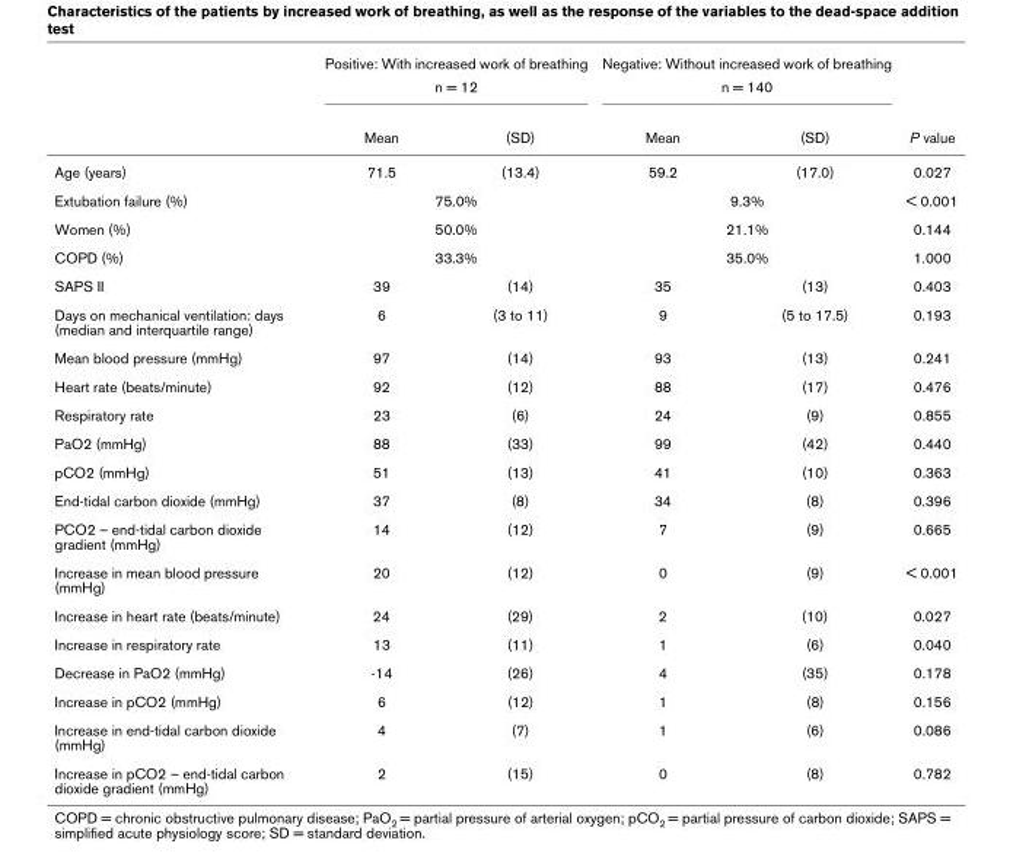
<table><thead><tr><td rowspan="3"></td><td rowspan="2" colspan="2">Positive: With increased work of breathing n = 12</td><td rowspan="2" colspan="2">Negative: Without increased work of breathing n = 140</td><td rowspan="3">P value</td></tr><tr></tr><tr><td>Mean</td><td>(SD)</td><td>Mean</td><td>(SD)</td></tr></thead><tbody><tr><td>Age (years)</td><td>71.5</td><td>(13.4)</td><td>59.2</td><td>(17.0)</td><td>0.027</td></tr><tr><td>Extubation failure (%)</td><td colspan="2">75.0%</td><td colspan="2">9.3%</td><td>&lt; 0.001</td></tr><tr><td>Women (%)</td><td colspan="2">50.0%</td><td colspan="2">21.1%</td><td>0.144</td></tr><tr><td>COPD (%)</td><td colspan="2">33.3%</td><td colspan="2">35.0%</td><td>1.000</td></tr><tr><td>SAPS II</td><td>39</td><td>(14)</td><td>35</td><td>(13)</td><td>0.403</td></tr><tr><td>Days on mechanical ventilation: days (median and interquartile range)</td><td>6</td><td>(3 to 11)</td><td>9</td><td>(5 to 17.5)</td><td>0.193</td></tr><tr><td>Mean blood pressure (mmHg)</td><td>97</td><td>(14)</td><td>93</td><td>(13)</td><td>0.241</td></tr><tr><td>Heart rate (beats/minute)</td><td>92</td><td>(12)</td><td>88</td><td>(17)</td><td>0.476</td></tr><tr><td>Respiratory rate</td><td>23</td><td>(6)</td><td>24</td><td>(9)</td><td>0.855</td></tr><tr><td>PaO2 (mmHg)</td><td>88</td><td>(33)</td><td>99</td><td>(42)</td><td>0.440</td></tr><tr><td>pCO2 (mmHg)</td><td>51</td><td>(13)</td><td>41</td><td>(10)</td><td>0.363</td></tr><tr><td>End-tidal carbon dioxide (mmHg)</td><td>37</td><td>(8)</td><td>34</td><td>(8)</td><td>0.396</td></tr><tr><td>PCO2 – end-tidal carbon dioxide gradient (mmHg)</td><td>14</td><td>(12)</td><td>7</td><td>(9)</td><td>0.665</td></tr><tr><td>Increase in mean blood pressure (mmHg)</td><td>20</td><td>(12)</td><td>0</td><td>(9)</td><td>&lt; 0.001</td></tr><tr><td>Increase in heart rate (beats/minute)</td><td>24</td><td>(29)</td><td>2</td><td>(10)</td><td>0.027</td></tr><tr><td>Increase in respiratory rate</td><td>13</td><td>(11)</td><td>1</td><td>(6)</td><td>0.040</td></tr><tr><td>Decrease in PaO2 (mmHg)</td><td>-14</td><td>(26)</td><td>4</td><td>(35)</td><td>0.178</td></tr><tr><td>Increase in pCO2 (mmHg)</td><td>6</td><td>(12)</td><td>1</td><td>(8)</td><td>0.156</td></tr><tr><td>Increase in end-tidal carbon dioxide (mmHg)</td><td>4</td><td>(7)</td><td>1</td><td>(6)</td><td>0.086</td></tr><tr><td>Increase in pCO2 – end-tidal carbon dioxide gradient (mmHg)</td><td>2</td><td>(15)</td><td>0</td><td>(8)</td><td>0.782</td></tr></tbody></table>